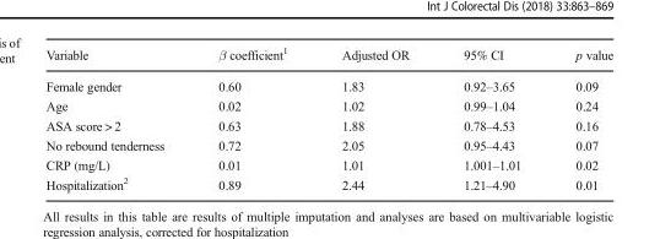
<table><thead><tr><td>Variable</td><td>β coefficient<sup>1</sup></td><td>Adjusted OR</td><td>95% CI</td><td>p value</td></tr></thead><tbody><tr><td>Female gender</td><td>0.60</td><td>1.83</td><td>0.92–3.65</td><td>0.09</td></tr><tr><td>Age</td><td>0.02</td><td>1.02</td><td>0.99–1.04</td><td>0.24</td></tr><tr><td>ASA score &gt; 2</td><td>0.63</td><td>1.88</td><td>0.78–4.53</td><td>0.16</td></tr><tr><td>No rebound tenderness</td><td>0.72</td><td>2.05</td><td>0.95–4.43</td><td>0.07</td></tr><tr><td>CRP (mg/L)</td><td>0.01</td><td>1.01</td><td>1.001–1.01</td><td>0.02</td></tr><tr><td>Hospitalization<sup>2</sup></td><td>0.89</td><td>2.44</td><td>1.21–4.90</td><td>0.01</td></tr></tbody></table>